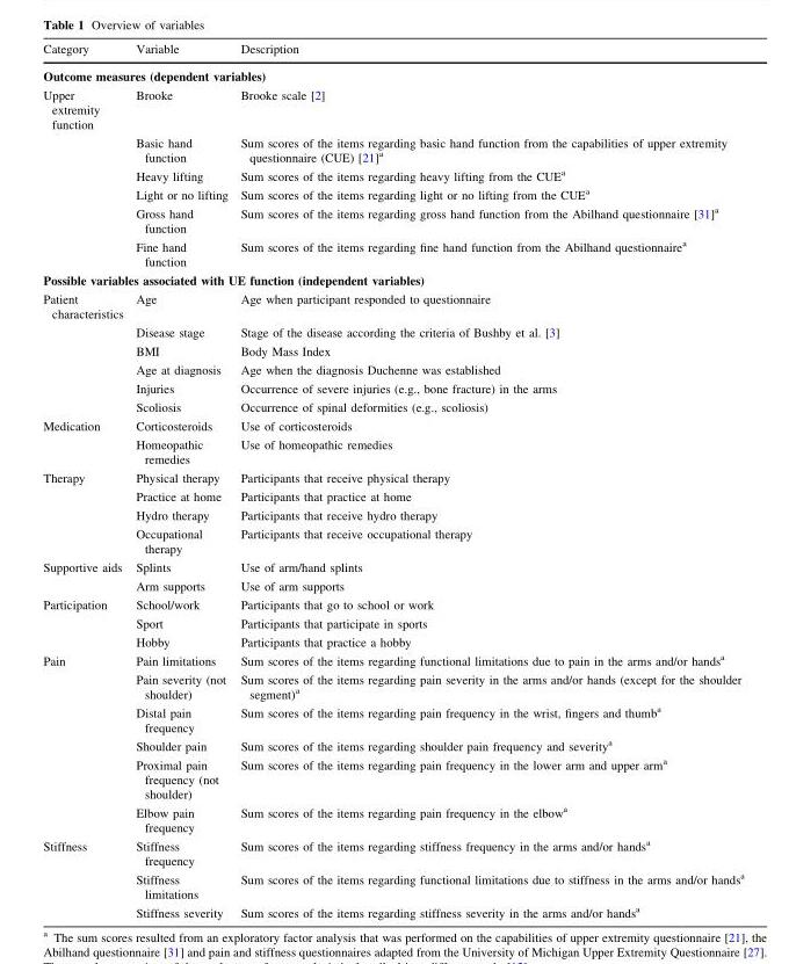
<table><thead><tr><td>Category</td><td>Variable</td><td>Description</td></tr></thead><tbody><tr><td colspan="3">Outcome measures (dependent variables)</td></tr><tr><td rowspan="6">Upper extremity function</td><td>Brooke</td><td>Brooke scale [2]</td></tr><tr><td>Basic hand function</td><td>Sum scores of the items regarding basic hand function from the capabilities of upper extremity questionnaire (CUE) [21]<sup>a</sup></td></tr><tr><td>Heavy lifting</td><td>Sum scores of the items regarding heavy lifting from the CUE<sup>a</sup></td></tr><tr><td>Light or no lifting</td><td>Sum scores of the items regarding light or no lifting from the CUE<sup>a</sup></td></tr><tr><td>Gross hand function</td><td>Sum scores of the items regarding gross hand function from the Abilhand questionnaire [31]<sup>a</sup></td></tr><tr><td>Fine hand function</td><td>Sum scores of the items regarding fine hand function from the Abilhand questionnaire<sup>a</sup></td></tr><tr><td colspan="3">Possible variables associated with UE function (independent variables)</td></tr><tr><td rowspan="6">Patient characteristics</td><td>Age</td><td>Age when participant responded to questionnaire</td></tr><tr><td>Disease stage</td><td>Stage of the disease according the criteria of Bushby et al. [3]</td></tr><tr><td>BMI</td><td>Body Mass Index</td></tr><tr><td>Age at diagnosis</td><td>Age when the diagnosis Duchenne was established</td></tr><tr><td>Injuries</td><td>Occurrence of severe injuries (e.g., bone fracture) in the arms</td></tr><tr><td>Scoliosis</td><td>Occurrence of spinal deformities (e.g., scoliosis)</td></tr><tr><td rowspan="2">Medication</td><td>Corticosteroids</td><td>Use of corticosteroids</td></tr><tr><td>Homeopathic remedies</td><td>Use of homeopathic remedies</td></tr><tr><td rowspan="4">Therapy</td><td>Physical therapy</td><td>Participants that receive physical therapy</td></tr><tr><td>Practice at home</td><td>Participants that practice at home</td></tr><tr><td>Hydro therapy</td><td>Participants that receive hydro therapy</td></tr><tr><td>Occupational therapy</td><td>Participants that receive occupational therapy</td></tr><tr><td rowspan="2">Supportive aids</td><td>Splints</td><td>Use of arm/hand splints</td></tr><tr><td>Arm supports</td><td>Use of arm supports</td></tr><tr><td rowspan="3">Participation</td><td>School/work</td><td>Participants that go to school or work</td></tr><tr><td>Sport</td><td>Participants that participate in sports</td></tr><tr><td>Hobby</td><td>Participants that practice a hobby</td></tr><tr><td rowspan="6">Pain</td><td>Pain limitations</td><td>Sum scores of the items regarding functional limitations due to pain in the arms and/or hands<sup>a</sup></td></tr><tr><td>Pain severity (not shoulder)</td><td>Sum scores of the items regarding pain severity in the arms and/or hands (except for the shoulder segment)<sup>a</sup></td></tr><tr><td>Distal pain frequency</td><td>Sum scores of the items regarding pain frequency in the wrist, fingers and thumb<sup>a</sup></td></tr><tr><td>Shoulder pain</td><td>Sum scores of the items regarding shoulder pain frequency and severity<sup>a</sup></td></tr><tr><td>Proximal pain frequency (not shoulder)</td><td>Sum scores of the items regarding pain frequency in the lower arm and upper arm<sup>a</sup></td></tr><tr><td>Elbow pain frequency</td><td>Sum scores of the items regarding pain frequency in the elbow<sup>a</sup></td></tr><tr><td rowspan="3">Stiffness</td><td>Stiffness frequency</td><td>Sum scores of the items regarding stiffness frequency in the arms and/or hands<sup>a</sup></td></tr><tr><td>Stiffness limitations</td><td>Sum scores of the items regarding functional limitations due to stiffness in the arms and/or hands<sup>a</sup></td></tr><tr><td>Stiffness severity</td><td>Sum scores of the items regarding stiffness severity in the arms and/or hands<sup>a</sup></td></tr></tbody></table>